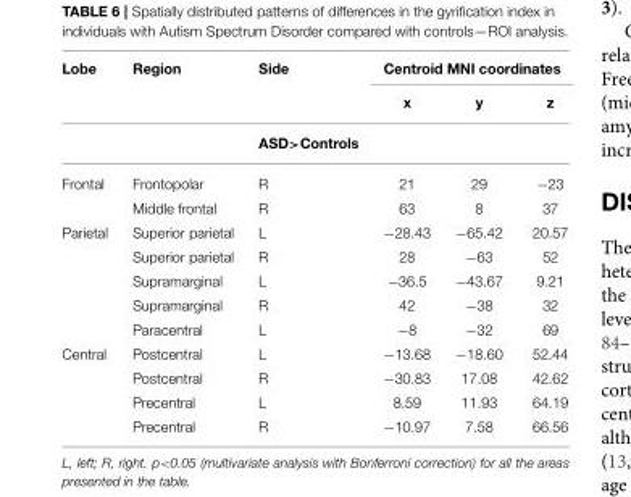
<table><thead><tr><td rowspan="2">Lobe</td><td rowspan="2">Region</td><td rowspan="2">Side</td><td colspan="3">Centroid MNI coordinates</td></tr><tr><td>x</td><td>y</td><td>z</td></tr></thead><tbody><tr><td></td><td></td><td>ASD&gt;Controls</td><td></td><td></td><td></td></tr><tr><td rowspan="2">Frontal</td><td>Frontopolar</td><td>R</td><td>21</td><td>29</td><td>−23</td></tr><tr><td>Middle frontal</td><td>R</td><td>63</td><td>8</td><td>37</td></tr><tr><td rowspan="5">Parietal</td><td>Superior parietal</td><td>L</td><td>−28.43</td><td>−65.42</td><td>20.57</td></tr><tr><td>Superior parietal</td><td>R</td><td>28</td><td>−63</td><td>52</td></tr><tr><td>Supramarginal</td><td>L</td><td>−36.5</td><td>−43.67</td><td>9.21</td></tr><tr><td>Supramarginal</td><td>R</td><td>42</td><td>−38</td><td>32</td></tr><tr><td>Paracentral</td><td>L</td><td>−8</td><td>−32</td><td>69</td></tr><tr><td rowspan="4">Central</td><td>Postcentral</td><td>L</td><td>−13.68</td><td>−18.60</td><td>52.44</td></tr><tr><td>Postcentral</td><td>R</td><td>−30.83</td><td>17.08</td><td>42.62</td></tr><tr><td>Precentral</td><td>L</td><td>8.59</td><td>11.93</td><td>64.19</td></tr><tr><td>Precentral</td><td>R</td><td>−10.97</td><td>7.58</td><td>66.56</td></tr></tbody></table>